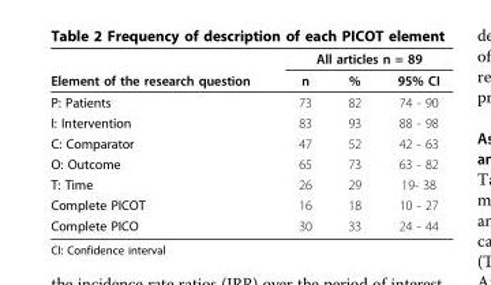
<table><thead><tr><td rowspan="2">Element of the research question</td><td colspan="3">All articles n = 89</td></tr><tr><td>n</td><td>%</td><td>95% CI</td></tr></thead><tbody><tr><td>P: Patients</td><td>73</td><td>82</td><td>74 - 90</td></tr><tr><td>I: Intervention</td><td>83</td><td>93</td><td>88 - 98</td></tr><tr><td>C: Comparator</td><td>47</td><td>52</td><td>42 - 63</td></tr><tr><td>O: Outcome</td><td>65</td><td>73</td><td>63 - 82</td></tr><tr><td>T: Time</td><td>26</td><td>29</td><td>19- 38</td></tr><tr><td>Complete PICOT</td><td>16</td><td>18</td><td>10 - 27</td></tr><tr><td>Complete PICO</td><td>30</td><td>33</td><td>24 - 44</td></tr></tbody></table>